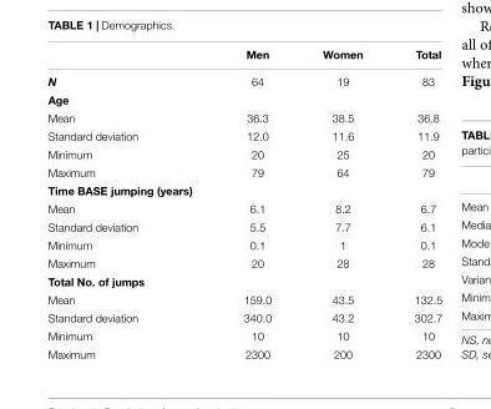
<table><thead><tr><td></td><td>Men</td><td>Women</td><td>Total</td></tr></thead><tbody><tr><td>N</td><td>64</td><td>19</td><td>83</td></tr><tr><td colspan="4">Age</td></tr><tr><td>Mean</td><td>36.3</td><td>38.5</td><td>36.8</td></tr><tr><td>Standard deviation</td><td>12.0</td><td>11.6</td><td>11.9</td></tr><tr><td>Minimum</td><td>20</td><td>25</td><td>20</td></tr><tr><td>Maximum</td><td>79</td><td>64</td><td>79</td></tr><tr><td colspan="4">Time BASE jumping (years)</td></tr><tr><td>Mean</td><td>6.1</td><td>8.2</td><td>6.7</td></tr><tr><td>Standard deviation</td><td>5.5</td><td>7.7</td><td>6.1</td></tr><tr><td>Minimum</td><td>0.1</td><td>1</td><td>0.1</td></tr><tr><td>Maximum</td><td>20</td><td>28</td><td>28</td></tr><tr><td colspan="4">Total No. of jumps</td></tr><tr><td>Mean</td><td>159.0</td><td>43.5</td><td>132.5</td></tr><tr><td>Standard deviation</td><td>340.0</td><td>43.2</td><td>302.7</td></tr><tr><td>Minimum</td><td>10</td><td>10</td><td>10</td></tr><tr><td>Maximum</td><td>2300</td><td>200</td><td>2300</td></tr></tbody></table>